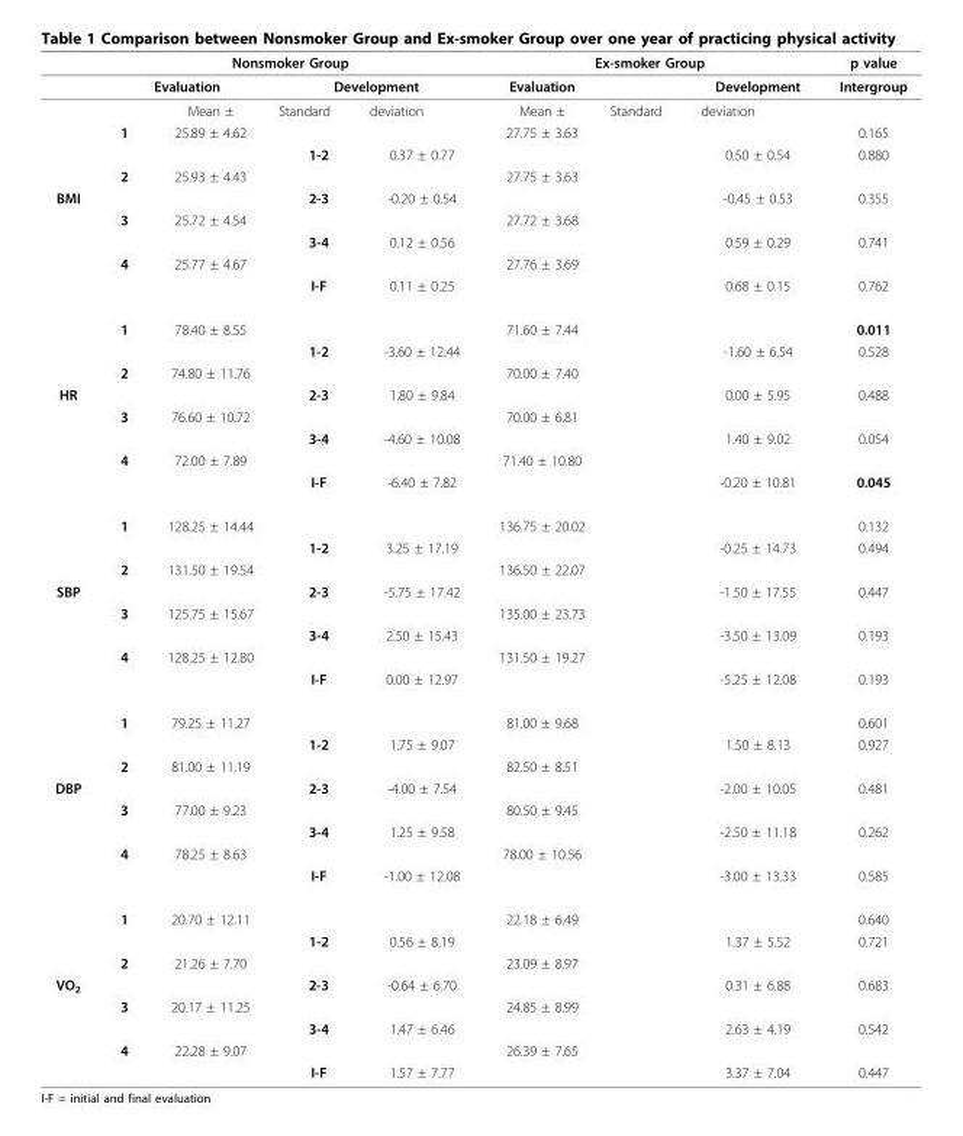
<table><thead><tr><td rowspan="3"></td><td colspan="4">Nonsmoker Group</td><td colspan="3">Ex-smoker Group</td><td rowspan="3">p value Intergroup</td></tr><tr><td colspan="2">Evaluation</td><td colspan="2">Development</td><td rowspan="2">Evaluation Mean ±</td><td rowspan="2">Standard</td><td rowspan="2">Development deviation</td></tr><tr><td></td><td>Mean ±</td><td>Standard</td><td>deviation</td></tr></thead><tbody><tr><td></td><td>1</td><td>25.89 ± 4.62</td><td></td><td></td><td>27.75 ± 3.63</td><td></td><td></td><td>0.165</td></tr><tr><td></td><td></td><td></td><td>1-2</td><td>0.37 ± 0.77</td><td></td><td></td><td>0.50 ± 0.54</td><td>0.880</td></tr><tr><td></td><td>2</td><td>25.93 ± 4.43</td><td></td><td></td><td>27.75 ± 3.63</td><td></td><td></td><td></td></tr><tr><td rowspan="8">BMI</td><td></td><td></td><td>2-3</td><td>-0.20 ± 0.54</td><td></td><td></td><td>-0.45 ± 0.53</td><td>0.355</td></tr><tr><td>3</td><td>25.72 ± 4.54</td><td></td><td></td><td>27.72 ± 3.68</td><td></td><td></td><td></td></tr><tr><td></td><td></td><td>3-4</td><td>0.12 ± 0.56</td><td></td><td></td><td>0.59 ± 0.29</td><td>0.741</td></tr><tr><td>4</td><td>25.77 ± 4.67</td><td></td><td></td><td>27.76 ± 3.69</td><td></td><td></td><td></td></tr><tr><td></td><td></td><td>I-F</td><td>0.11 ± 0.25</td><td></td><td></td><td>0.68 ± 0.15</td><td>0.762</td></tr><tr><td>1</td><td>78.40 ± 8.55</td><td></td><td></td><td>71.60 ± 7.44</td><td></td><td></td><td>0.011</td></tr><tr><td></td><td></td><td>1-2</td><td>-3.60 ± 12.44</td><td></td><td></td><td>-1.60 ± 6.54</td><td>0.528</td></tr><tr><td>2</td><td>74.80 ± 11.76</td><td></td><td></td><td>70.00 ± 7.40</td><td></td><td></td><td></td></tr><tr><td rowspan="8">HR</td><td></td><td></td><td>2-3</td><td>1.80 ± 9.84</td><td></td><td></td><td>0.00 ± 5.95</td><td>0.488</td></tr><tr><td>3</td><td>76.60 ± 10.72</td><td></td><td></td><td>70.00 ± 6.81</td><td></td><td></td><td></td></tr><tr><td></td><td></td><td>3-4</td><td>-4.60 ± 10.08</td><td></td><td></td><td>1.40 ± 9.02</td><td>0.054</td></tr><tr><td>4</td><td>72.00 ± 7.89</td><td></td><td></td><td>71.40 ± 10.80</td><td></td><td></td><td></td></tr><tr><td></td><td></td><td>I-F</td><td>-6.40 ± 7.82</td><td></td><td></td><td>-0.20 ± 10.81</td><td>0.045</td></tr><tr><td>1</td><td>128.25 ± 14.44</td><td></td><td></td><td>136.75 ± 20.02</td><td></td><td></td><td>0.132</td></tr><tr><td></td><td></td><td>1-2</td><td>3.25 ± 17.19</td><td></td><td></td><td>-0.25 ± 14.73</td><td>0.494</td></tr><tr><td>2</td><td>131.50 ± 19.54</td><td></td><td></td><td>136.50 ± 22.07</td><td></td><td></td><td></td></tr><tr><td rowspan="8">SBP</td><td></td><td></td><td>2-3</td><td>-5.75 ± 17.42</td><td></td><td></td><td>-1.50 ± 17.55</td><td>0.447</td></tr><tr><td>3</td><td>125.75 ± 15.67</td><td></td><td></td><td>135.00 ± 23.73</td><td></td><td></td><td></td></tr><tr><td></td><td></td><td>3-4</td><td>2.50 ± 15.43</td><td></td><td></td><td>-3.50 ± 13.09</td><td>0.193</td></tr><tr><td>4</td><td>128.25 ± 12.80</td><td></td><td></td><td>131.50 ± 19.27</td><td></td><td></td><td></td></tr><tr><td></td><td></td><td>I-F</td><td>0.00 ± 12.97</td><td></td><td></td><td>-5.25 ± 12.08</td><td>0.193</td></tr><tr><td>1</td><td>79.25 ± 11.27</td><td></td><td></td><td>81.00 ± 9.68</td><td></td><td></td><td>0.601</td></tr><tr><td></td><td></td><td>1-2</td><td>1.75 ± 9.07</td><td></td><td></td><td>1.50 ± 8.13</td><td>0.927</td></tr><tr><td>2</td><td>81.00 ± 11.19</td><td></td><td></td><td>82.50 ± 8.51</td><td></td><td></td><td></td></tr><tr><td rowspan="8">DBP</td><td></td><td></td><td>2-3</td><td>-4.00 ± 7.54</td><td></td><td></td><td>-2.00 ± 10.05</td><td>0.481</td></tr><tr><td>3</td><td>77.00 ± 9.23</td><td></td><td></td><td>80.50 ± 9.45</td><td></td><td></td><td></td></tr><tr><td></td><td></td><td>3-4</td><td>1.25 ± 9.58</td><td></td><td></td><td>-2.50 ± 11.18</td><td>0.262</td></tr><tr><td>4</td><td>78.25 ± 8.63</td><td></td><td></td><td>78.00 ± 10.56</td><td></td><td></td><td></td></tr><tr><td></td><td></td><td>I-F</td><td>-1.00 ± 12.08</td><td></td><td></td><td>-3.00 ± 13.33</td><td>0.585</td></tr><tr><td>1</td><td>20.70 ± 12.11</td><td></td><td></td><td>22.18 ± 6.49</td><td></td><td></td><td>0.640</td></tr><tr><td></td><td></td><td>1-2</td><td>0.56 ± 8.19</td><td></td><td></td><td>1.37 ± 5.52</td><td>0.721</td></tr><tr><td>2</td><td>21.26 ± 7.70</td><td></td><td></td><td>23.09 ± 8.97</td><td></td><td></td><td></td></tr><tr><td rowspan="5">VO<sub>2</sub></td><td></td><td></td><td>2-3</td><td>-0.64 ± 6.70</td><td></td><td></td><td>0.31 ± 6.88</td><td>0.683</td></tr><tr><td>3</td><td>20.17 ± 11.25</td><td></td><td></td><td>24.85 ± 8.99</td><td></td><td></td><td></td></tr><tr><td></td><td></td><td>3-4</td><td>1.47 ± 6.46</td><td></td><td></td><td>2.63 ± 4.19</td><td>0.542</td></tr><tr><td>4</td><td>22.28 ± 9.07</td><td></td><td></td><td>26.39 ± 7.65</td><td></td><td></td><td></td></tr><tr><td></td><td></td><td>I-F</td><td>1.57 ± 7.77</td><td></td><td></td><td>3.37 ± 7.04</td><td>0.447</td></tr></tbody></table>